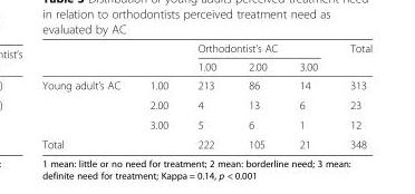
<table><thead><tr><td rowspan="2"></td><td rowspan="2"></td><td colspan="3">Orthodontist’s AC</td><td rowspan="2">Total</td></tr><tr><td>1.00</td><td>2.00</td><td>3.00</td></tr></thead><tbody><tr><td rowspan="3">Young adult’s AC</td><td>1.00</td><td>213</td><td>86</td><td>14</td><td>313</td></tr><tr><td>2.00</td><td>4</td><td>13</td><td>6</td><td>23</td></tr><tr><td>3.00</td><td>5</td><td>6</td><td>1</td><td>12</td></tr><tr><td colspan="2">Total</td><td>222</td><td>105</td><td>21</td><td>348</td></tr></tbody></table>